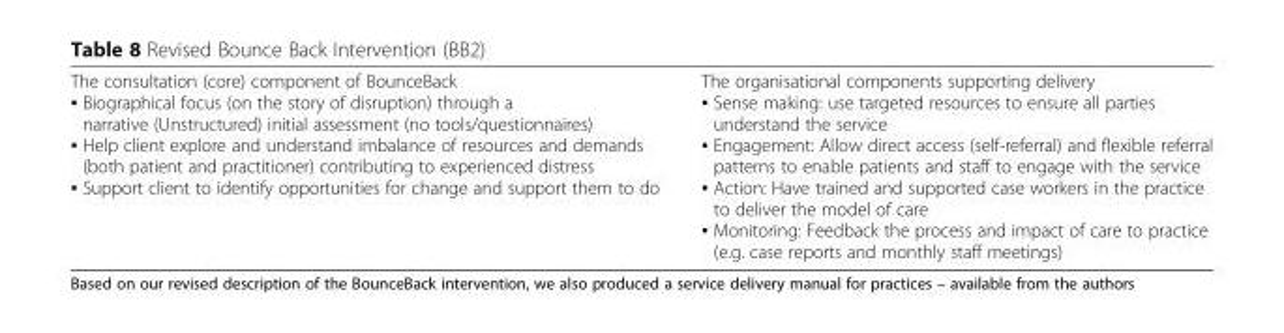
<table><tbody><tr><td>The consultation (core) component of BounceBack ▪ Biographical focus (on the story of disruption) through a narrative (Unstructured) initial assessment (no tools/questionnaires) ▪ Help client explore and understand imbalance of resources and demands (both patient and practitioner) contributing to experienced distress ▪ Support client to identify opportunities for change and support them to do</td><td>The organisational components supporting delivery ▪ Sense making: use targeted resources to ensure all parties understand the service ▪ Engagement: Allow direct access (self-referral) and flexible referral patterns to enable patients and staff to engage with the service ▪ Action: Have trained and supported case workers in the practice to deliver the model of care ▪ Monitoring: Feedback the process and impact of care to practice (e.g. case reports and monthly staff meetings)</td></tr></tbody></table>